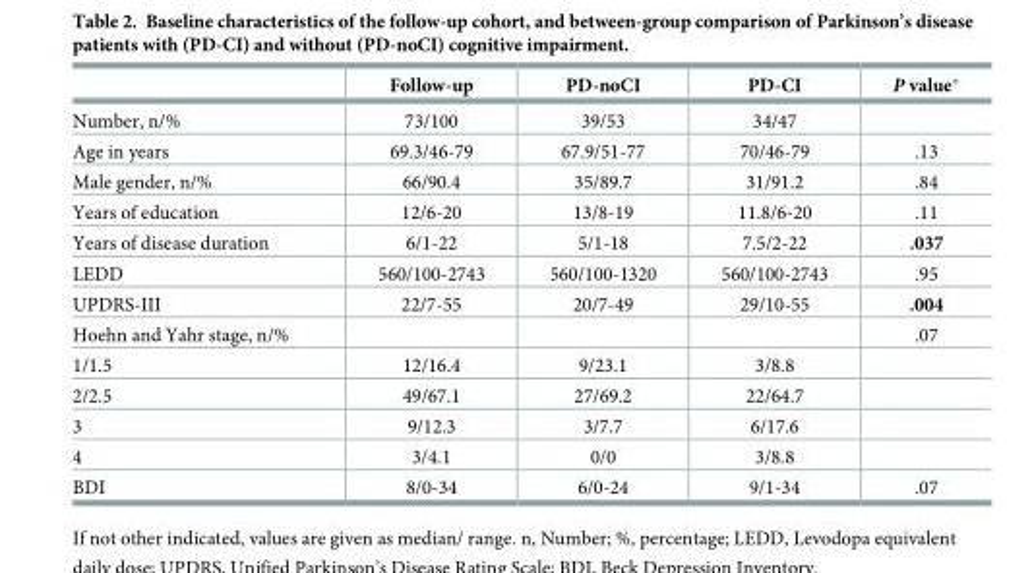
<table><thead><tr><td></td><td>Follow-up</td><td>PD-noCI</td><td>PD-CI</td><td>P value*</td></tr></thead><tbody><tr><td>Number, n/%</td><td>73/100</td><td>39/53</td><td>34/47</td><td></td></tr><tr><td>Age in years</td><td>69.3/46-79</td><td>67.9/51-77</td><td>70/46-79</td><td>.13</td></tr><tr><td>Male gender, n/%</td><td>66/90.4</td><td>35/89.7</td><td>31/91.2</td><td>.84</td></tr><tr><td>Years of education</td><td>12/6-20</td><td>13/8-19</td><td>11.8/6-20</td><td>.11</td></tr><tr><td>Years of disease duration</td><td>6/1-22</td><td>5/1-18</td><td>7.5/2-22</td><td>.037</td></tr><tr><td>LEDD</td><td>560/100-2743</td><td>560/100-1320</td><td>560/100-2743</td><td>.95</td></tr><tr><td>UPDRS-III</td><td>22/7-55</td><td>20/7-49</td><td>29/10-55</td><td>.004</td></tr><tr><td>Hoehn and Yahr stage, n/%</td><td></td><td></td><td></td><td>.07</td></tr><tr><td>1/1.5</td><td>12/16.4</td><td>9/23.1</td><td>3/8.8</td><td></td></tr><tr><td>2/2.5</td><td>49/67.1</td><td>27/69.2</td><td>22/64.7</td><td></td></tr><tr><td>3</td><td>9/12.3</td><td>3/7.7</td><td>6/17.6</td><td></td></tr><tr><td>4</td><td>3/4.1</td><td>0/0</td><td>3/8.8</td><td></td></tr><tr><td>BDI</td><td>8/0-34</td><td>6/0-24</td><td>9/1-34</td><td>.07</td></tr></tbody></table>